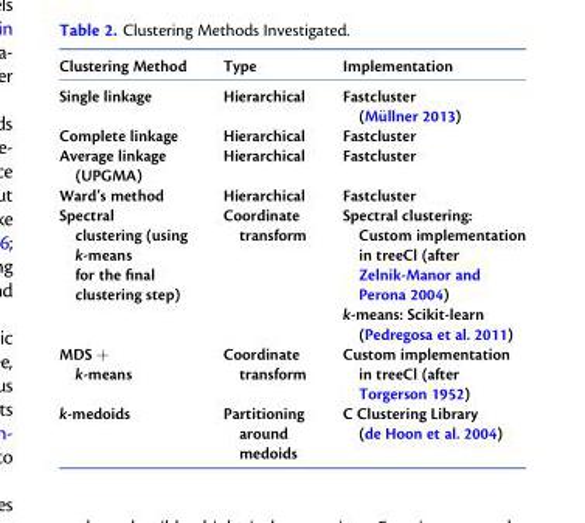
<table><thead><tr><td>Clustering Method</td><td>Type</td><td>Implementation</td></tr></thead><tbody><tr><td>Single linkage</td><td>Hierarchical</td><td>Fastcluster (M€ullner 2013)</td></tr><tr><td>Complete linkage</td><td>Hierarchical</td><td>Fastcluster</td></tr><tr><td>Average linkage (UPGMA)</td><td>Hierarchical</td><td>Fastcluster</td></tr><tr><td>Ward’s method</td><td>Hierarchical</td><td>Fastcluster</td></tr><tr><td rowspan="2">Spectral clustering (using k-means for the final clustering step)</td><td rowspan="2">Coordinate transform</td><td>Spectral clustering: Custom implementation in treeCl (after Zelnik-Manor and Perona 2004)</td></tr><tr><td>k-means: Scikit-learn (Pedregosa et al. 2011)</td></tr><tr><td>MDS + k-means</td><td>Coordinate transform</td><td>Custom implementation in treeCl (after Torgerson 1952)</td></tr><tr><td>k-medoids</td><td>Partitioning around medoids</td><td>C Clustering Library (de Hoon et al. 2004)</td></tr></tbody></table>